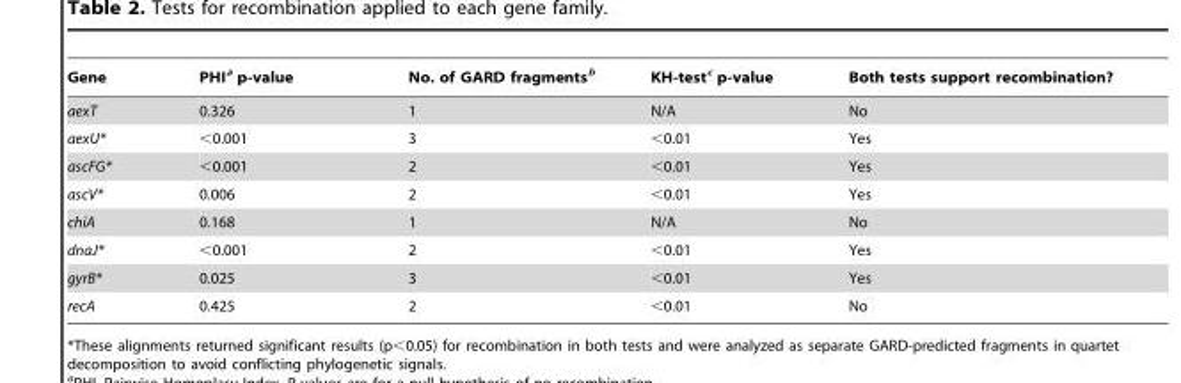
<table><thead><tr><td>Gene</td><td>PHI<sup>a</sup> p-value</td><td>No. of GARD fragments<sup>b</sup></td><td>KH-test<sup>c</sup> p-value</td><td>Both tests support recombination?</td></tr></thead><tbody><tr><td>aexT</td><td>0.326</td><td>1</td><td>N/A</td><td>No</td></tr><tr><td>aexU*</td><td>&lt;0.001</td><td>3</td><td>&lt;0.01</td><td>Yes</td></tr><tr><td>ascFG*</td><td>&lt;0.001</td><td>2</td><td>&lt;0.01</td><td>Yes</td></tr><tr><td>ascV*</td><td>0.006</td><td>2</td><td>&lt;0.01</td><td>Yes</td></tr><tr><td>chiA</td><td>0.168</td><td>1</td><td>N/A</td><td>No</td></tr><tr><td>dnaJ*</td><td>&lt;0.001</td><td>2</td><td>&lt;0.01</td><td>Yes</td></tr><tr><td>gyrB*</td><td>0.025</td><td>3</td><td>&lt;0.01</td><td>Yes</td></tr><tr><td>recA</td><td>0.425</td><td>2</td><td>&lt;0.01</td><td>No</td></tr></tbody></table>